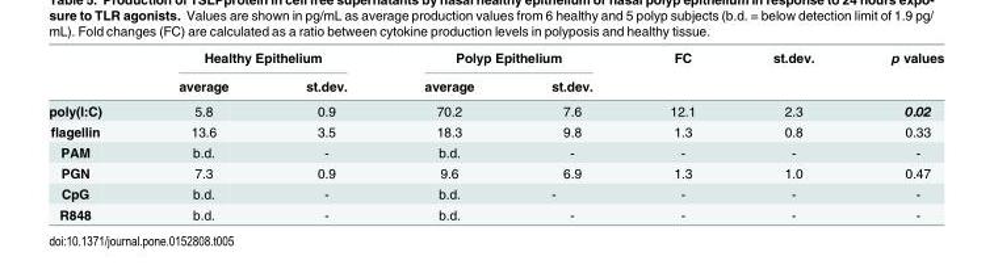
<table><thead><tr><td rowspan="2"></td><td colspan="2">Healthy Epithelium</td><td colspan="2">Polyp Epithelium</td><td rowspan="2">FC</td><td rowspan="2">st.dev.</td><td rowspan="2">p values</td></tr><tr><td>average</td><td>st.dev.</td><td>average</td><td>st.dev.</td></tr></thead><tbody><tr><td>poly(I:C)</td><td>5.8</td><td>0.9</td><td>70.2</td><td>7.6</td><td>12.1</td><td>2.3</td><td>0.02</td></tr><tr><td>flagellin</td><td>13.6</td><td>3.5</td><td>18.3</td><td>9.8</td><td>1.3</td><td>0.8</td><td>0.33</td></tr><tr><td>PAM</td><td>b.d.</td><td>-</td><td>b.d.</td><td>-</td><td>-</td><td>-</td><td>-</td></tr><tr><td>PGN</td><td>7.3</td><td>0.9</td><td>9.6</td><td>6.9</td><td>1.3</td><td>1.0</td><td>0.47</td></tr><tr><td>CpG</td><td>b.d.</td><td>-</td><td>b.d.</td><td>-</td><td>-</td><td>-</td><td>-</td></tr><tr><td>R848</td><td>b.d.</td><td>-</td><td>b.d.</td><td>-</td><td>-</td><td>-</td><td>-</td></tr></tbody></table>